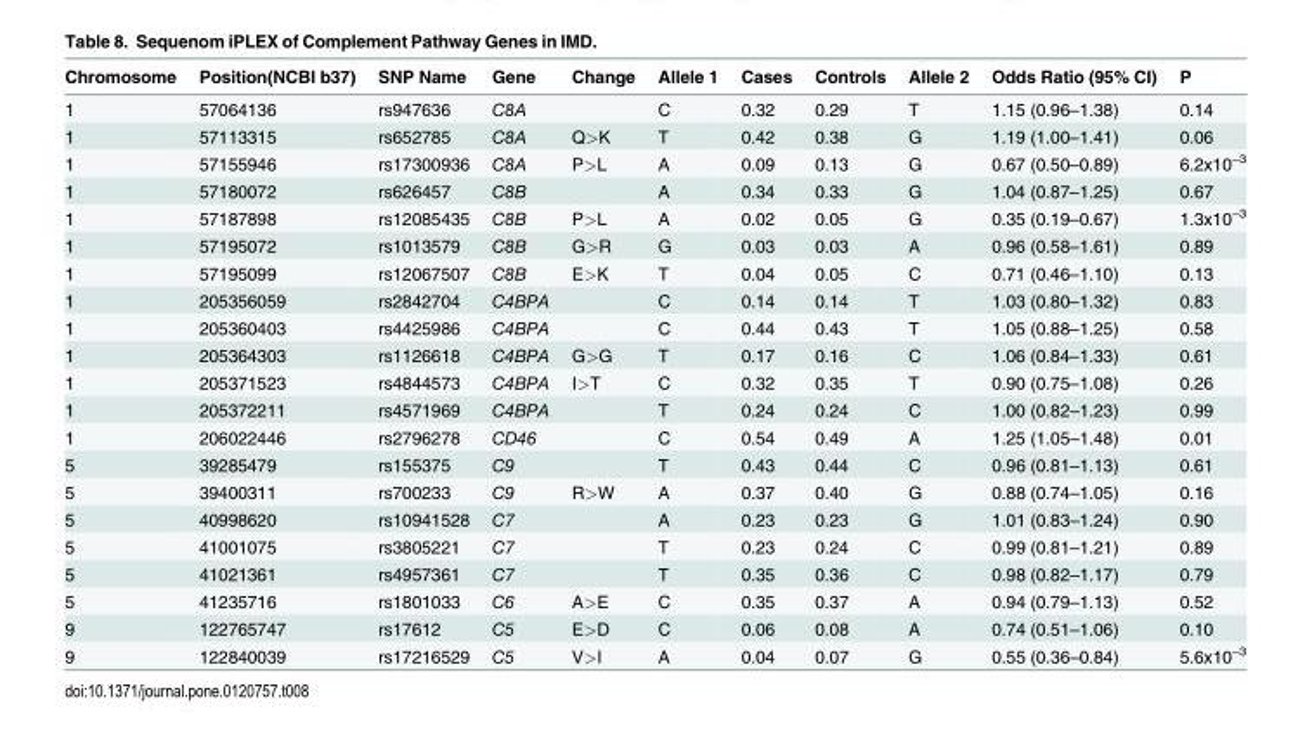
<table><thead><tr><td>Chromosome</td><td>Position(NCBI b37)</td><td>SNP Name</td><td>Gene</td><td>Change</td><td>Allele 1</td><td>Cases</td><td>Controls</td><td>Allele 2</td><td>Odds Ratio (95% CI)</td><td>P</td></tr></thead><tbody><tr><td>1</td><td>57064136</td><td>rs947636</td><td>C8A</td><td></td><td>C</td><td>0.32</td><td>0.29</td><td>T</td><td>1.15 (0.96–1.38)</td><td>0.14</td></tr><tr><td>1</td><td>57113315</td><td>rs652785</td><td>C8A</td><td>Q&gt;K</td><td>T</td><td>0.42</td><td>0.38</td><td>G</td><td>1.19 (1.00–1.41)</td><td>0.06</td></tr><tr><td>1</td><td>57155946</td><td>rs17300936</td><td>C8A</td><td>P&gt;L</td><td>A</td><td>0.09</td><td>0.13</td><td>G</td><td>0.67 (0.50–0.89)</td><td>6.2x10<sup>−3</sup></td></tr><tr><td>1</td><td>57180072</td><td>rs626457</td><td>C8B</td><td></td><td>A</td><td>0.34</td><td>0.33</td><td>G</td><td>1.04 (0.87–1.25)</td><td>0.67</td></tr><tr><td>1</td><td>57187898</td><td>rs12085435</td><td>C8B</td><td>P&gt;L</td><td>A</td><td>0.02</td><td>0.05</td><td>G</td><td>0.35 (0.19–0.67)</td><td>1.3x10<sup>−3</sup></td></tr><tr><td>1</td><td>57195072</td><td>rs1013579</td><td>C8B</td><td>G&gt;R</td><td>G</td><td>0.03</td><td>0.03</td><td>A</td><td>0.96 (0.58–1.61)</td><td>0.89</td></tr><tr><td>1</td><td>57195099</td><td>rs12067507</td><td>C8B</td><td>E&gt;K</td><td>T</td><td>0.04</td><td>0.05</td><td>C</td><td>0.71 (0.46–1.10)</td><td>0.13</td></tr><tr><td>1</td><td>205356059</td><td>rs2842704</td><td>C4BPA</td><td></td><td>C</td><td>0.14</td><td>0.14</td><td>T</td><td>1.03 (0.80–1.32)</td><td>0.83</td></tr><tr><td>1</td><td>205360403</td><td>rs4425986</td><td>C4BPA</td><td></td><td>C</td><td>0.44</td><td>0.43</td><td>T</td><td>1.05 (0.88–1.25)</td><td>0.58</td></tr><tr><td>1</td><td>205364303</td><td>rs1126618</td><td>C4BPA</td><td>G&gt;G</td><td>T</td><td>0.17</td><td>0.16</td><td>C</td><td>1.06 (0.84–1.33)</td><td>0.61</td></tr><tr><td>1</td><td>205371523</td><td>rs4844573</td><td>C4BPA</td><td>I&gt;T</td><td>C</td><td>0.32</td><td>0.35</td><td>T</td><td>0.90 (0.75–1.08)</td><td>0.26</td></tr><tr><td>1</td><td>205372211</td><td>rs4571969</td><td>C4BPA</td><td></td><td>T</td><td>0.24</td><td>0.24</td><td>C</td><td>1.00 (0.82–1.23)</td><td>0.99</td></tr><tr><td>1</td><td>206022446</td><td>rs2796278</td><td>CD46</td><td></td><td>C</td><td>0.54</td><td>0.49</td><td>A</td><td>1.25 (1.05–1.48)</td><td>0.01</td></tr><tr><td>5</td><td>39285479</td><td>rs155375</td><td>C9</td><td></td><td>T</td><td>0.43</td><td>0.44</td><td>C</td><td>0.96 (0.81–1.13)</td><td>0.61</td></tr><tr><td>5</td><td>39400311</td><td>rs700233</td><td>C9</td><td>R&gt;W</td><td>A</td><td>0.37</td><td>0.40</td><td>G</td><td>0.88 (0.74–1.05)</td><td>0.16</td></tr><tr><td>5</td><td>40998620</td><td>rs10941528</td><td>C7</td><td></td><td>A</td><td>0.23</td><td>0.23</td><td>G</td><td>1.01 (0.83–1.24)</td><td>0.90</td></tr><tr><td>5</td><td>41001075</td><td>rs3805221</td><td>C7</td><td></td><td>T</td><td>0.23</td><td>0.24</td><td>C</td><td>0.99 (0.81–1.21)</td><td>0.89</td></tr><tr><td>5</td><td>41021361</td><td>rs4957361</td><td>C7</td><td></td><td>T</td><td>0.35</td><td>0.36</td><td>C</td><td>0.98 (0.82–1.17)</td><td>0.79</td></tr><tr><td>5</td><td>41235716</td><td>rs1801033</td><td>C6</td><td>A&gt;E</td><td>C</td><td>0.35</td><td>0.37</td><td>A</td><td>0.94 (0.79–1.13)</td><td>0.52</td></tr><tr><td>9</td><td>122765747</td><td>rs17612</td><td>C5</td><td>E&gt;D</td><td>C</td><td>0.06</td><td>0.08</td><td>A</td><td>0.74 (0.51–1.06)</td><td>0.10</td></tr><tr><td>9</td><td>122840039</td><td>rs17216529</td><td>C5</td><td>V&gt;I</td><td>A</td><td>0.04</td><td>0.07</td><td>G</td><td>0.55 (0.36–0.84)</td><td>5.6x10<sup>−3</sup></td></tr></tbody></table>